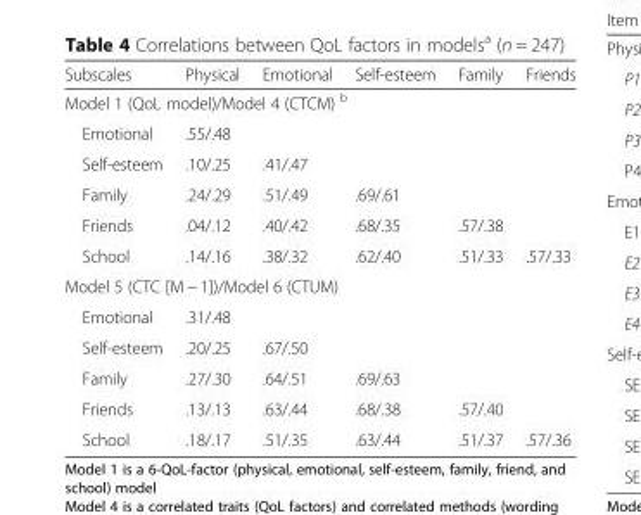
<table><thead><tr><td>Subscales</td><td>Physical</td><td>Emotional</td><td>Self-esteem</td><td>Family</td><td>Friends</td></tr></thead><tbody><tr><td colspan="6">Model 1 (QoL model)/Model 4 (CTCM) <sup>b</sup></td></tr><tr><td>Emotional</td><td>.55/.48</td><td></td><td></td><td></td><td></td></tr><tr><td>Self-esteem</td><td>.10/.25</td><td>.41/.47</td><td></td><td></td><td></td></tr><tr><td>Family</td><td>.24/.29</td><td>.51/.49</td><td>.69/.61</td><td></td><td></td></tr><tr><td>Friends</td><td>.04/.12</td><td>.40/.42</td><td>.68/.35</td><td>.57/.38</td><td></td></tr><tr><td>School</td><td>.14/.16</td><td>.38/.32</td><td>.62/.40</td><td>.51/.33</td><td>.57/.33</td></tr><tr><td colspan="6">Model 5 (CTC [M − 1])/Model 6 (CTUM)</td></tr><tr><td>Emotional</td><td>.31/.48</td><td></td><td></td><td></td><td></td></tr><tr><td>Self-esteem</td><td>.20/.25</td><td>.67/.50</td><td></td><td></td><td></td></tr><tr><td>Family</td><td>.27/.30</td><td>.64/.51</td><td>.69/.63</td><td></td><td></td></tr><tr><td>Friends</td><td>.13/.13</td><td>.63/.44</td><td>.68/.38</td><td>.57/.40</td><td></td></tr><tr><td>School</td><td>.18/.17</td><td>.51/.35</td><td>.63/.44</td><td>.51/.37</td><td>.57/.36</td></tr></tbody></table>